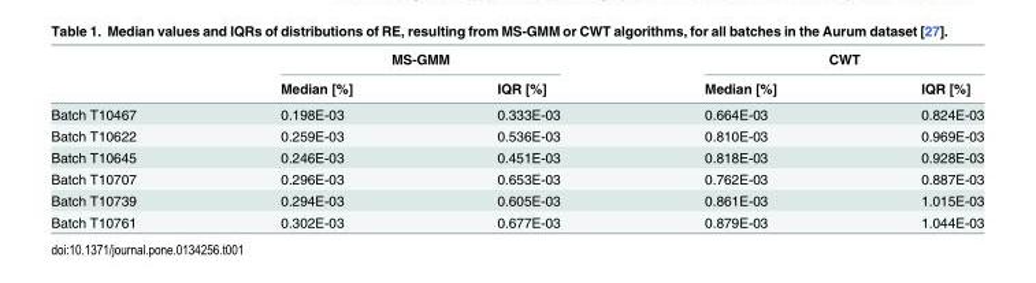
<table><thead><tr><td rowspan="2"></td><td colspan="2">MS-GMM</td><td colspan="2">CWT</td></tr><tr><td>Median [%]</td><td>IQR [%]</td><td>Median [%]</td><td>IQR [%]</td></tr></thead><tbody><tr><td>Batch T10467</td><td>0.198E-03</td><td>0.333E-03</td><td>0.664E-03</td><td>0.824E-03</td></tr><tr><td>Batch T10622</td><td>0.259E-03</td><td>0.536E-03</td><td>0.810E-03</td><td>0.969E-03</td></tr><tr><td>Batch T10645</td><td>0.246E-03</td><td>0.451E-03</td><td>0.818E-03</td><td>0.928E-03</td></tr><tr><td>Batch T10707</td><td>0.296E-03</td><td>0.653E-03</td><td>0.762E-03</td><td>0.887E-03</td></tr><tr><td>Batch T10739</td><td>0.294E-03</td><td>0.605E-03</td><td>0.861E-03</td><td>1.015E-03</td></tr><tr><td>Batch T10761</td><td>0.302E-03</td><td>0.677E-03</td><td>0.879E-03</td><td>1.044E-03</td></tr></tbody></table>